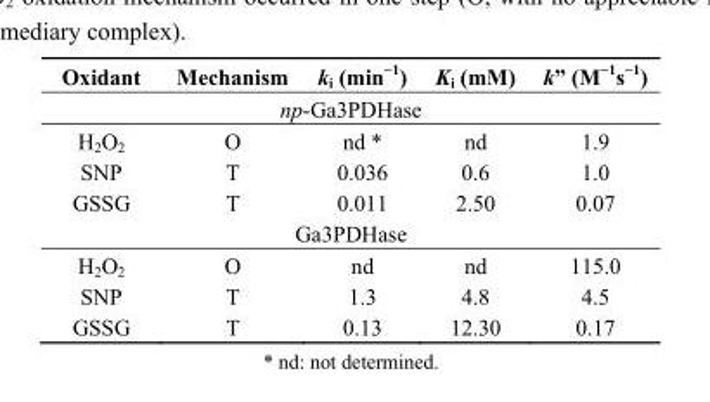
<table><thead><tr><td>Oxidant</td><td>Mechanism</td><td>k<sub>i</sub> (min<sup>−1</sup>)</td><td>K<sub>i</sub> (mM)</td><td>k” (M<sup>−1</sup>s<sup>−1</sup>)</td></tr></thead><tbody><tr><td colspan="5">np-Ga3PDHase</td></tr><tr><td>H<sub>2</sub>O<sub>2</sub></td><td>O</td><td>nd *</td><td>nd</td><td>1.9</td></tr><tr><td>SNP</td><td>T</td><td>0.036</td><td>0.6</td><td>1.0</td></tr><tr><td>GSSG</td><td>T</td><td>0.011</td><td>2.50</td><td>0.07</td></tr><tr><td colspan="5">Ga3PDHase</td></tr><tr><td>H<sub>2</sub>O<sub>2</sub></td><td>O</td><td>nd</td><td>nd</td><td>115.0</td></tr><tr><td>SNP</td><td>T</td><td>1.3</td><td>4.8</td><td>4.5</td></tr><tr><td>GSSG</td><td>T</td><td>0.13</td><td>12.30</td><td>0.17</td></tr></tbody></table>